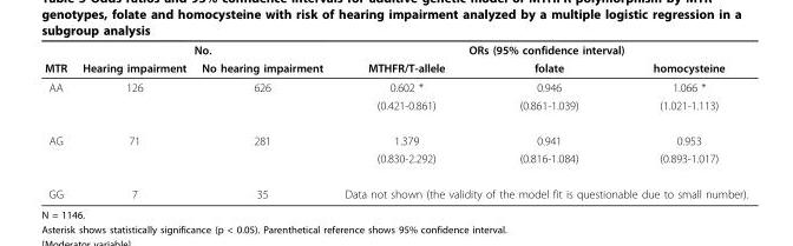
<table><thead><tr><td rowspan="2">MTR</td><td colspan="2">No.</td><td colspan="3">ORs (95% confidence interval)</td></tr><tr><td>Hearing impairment</td><td>No hearing impairment</td><td>MTHFR/T-allele</td><td>folate</td><td>homocysteine</td></tr></thead><tbody><tr><td rowspan="2">AA</td><td>126</td><td>626</td><td>0.602 *</td><td>0.946</td><td>1.066 *</td></tr><tr><td></td><td></td><td>(0.421-0.861)</td><td>(0.861-1.039)</td><td>(1.021-1.113)</td></tr><tr><td rowspan="2">AG</td><td>71</td><td>281</td><td>1.379</td><td>0.941</td><td>0.953</td></tr><tr><td></td><td></td><td>(0.830-2.292)</td><td>(0.816-1.084)</td><td>(0.893-1.017)</td></tr><tr><td>GG</td><td>7</td><td>35</td><td colspan="3">Data not shown (the validity of the model fit is questionable due to small number).</td></tr></tbody></table>